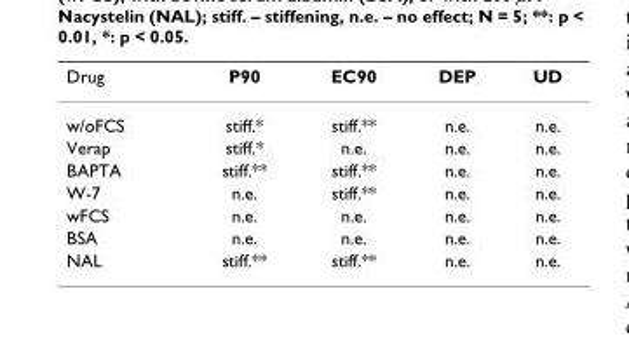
<table><thead><tr><td>Drug</td><td>P90</td><td>EC90</td><td>DEP</td><td>UD</td></tr></thead><tbody><tr><td>w/oFCS</td><td>stiff.*</td><td>stiff.**</td><td>n.e.</td><td>n.e.</td></tr><tr><td>Verap</td><td>stiff.*</td><td>n.e.</td><td>n.e.</td><td>n.e.</td></tr><tr><td>BAPTA</td><td>stiff.**</td><td>stiff.**</td><td>n.e.</td><td>n.e.</td></tr><tr><td>W-7</td><td>n.e.</td><td>stiff.**</td><td>n.e.</td><td>n.e.</td></tr><tr><td>wFCS</td><td>n.e.</td><td>n.e.</td><td>n.e.</td><td>n.e.</td></tr><tr><td>BSA</td><td>n.e.</td><td>n.e.</td><td>n.e.</td><td>n.e.</td></tr><tr><td>NAL</td><td>stiff.**</td><td>stiff.**</td><td>n.e.</td><td>n.e.</td></tr></tbody></table>